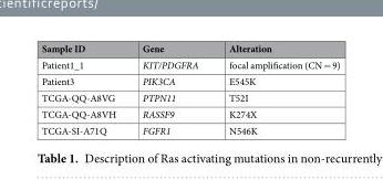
<table><thead><tr><td>Sample ID</td><td>Gene</td><td>Alteration</td></tr></thead><tbody><tr><td>Patient1_1</td><td>KIT/PDGFRA</td><td>focal amplification (CN = 9)</td></tr><tr><td>Patient3</td><td>PIK3CA</td><td>E545K</td></tr><tr><td>TCGA-QQ-A8VG</td><td>PTPN11</td><td>T52I</td></tr><tr><td>TCGA-QQ-A8VH</td><td>RASSF9</td><td>K274X</td></tr><tr><td>TCGA-SI-A71Q</td><td>FGFR1</td><td>N546K</td></tr></tbody></table>